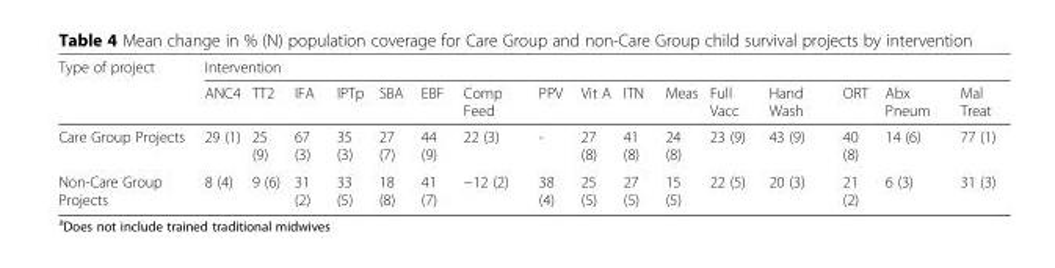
<table><thead><tr><td rowspan="2">Type of project</td><td colspan="16">Intervention</td></tr><tr><td>ANC4</td><td>TT2</td><td>IFA</td><td>IPTp</td><td>SBA</td><td>EBF</td><td>Comp Feed</td><td>PPV</td><td>Vit A</td><td>ITN</td><td>Meas</td><td>Full Vacc</td><td>Hand Wash</td><td>ORT</td><td>Abx Pneum</td><td>Mal Treat</td></tr></thead><tbody><tr><td>Care Group Projects</td><td>29 (1)</td><td>25 (9)</td><td>67 (3)</td><td>35 (3)</td><td>27 (7)</td><td>44 (9)</td><td>22 (3)</td><td>-</td><td>27 (8)</td><td>41 (8)</td><td>24 (8)</td><td>23 (9)</td><td>43 (9)</td><td>40 (8)</td><td>14 (6)</td><td>77 (1)</td></tr><tr><td>Non-Care Group Projects</td><td>8 (4)</td><td>9 (6)</td><td>31 (2)</td><td>33 (5)</td><td>18 (8)</td><td>41 (7)</td><td>−12 (2)</td><td>38 (4)</td><td>25 (5)</td><td>27 (5)</td><td>15 (5)</td><td>22 (5)</td><td>20 (3)</td><td>21 (2)</td><td>6 (3)</td><td>31 (3)</td></tr></tbody></table>